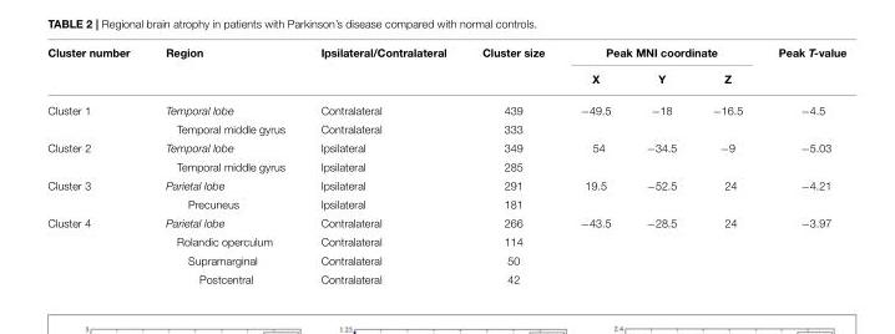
<table><thead><tr><td rowspan="2">Cluster number</td><td rowspan="2">Region</td><td rowspan="2">Ipsilateral/Contralateral</td><td rowspan="2">Cluster size</td><td colspan="3">Peak MNI coordinate</td><td rowspan="2">Peak T-value</td></tr><tr><td>X</td><td>Y</td><td>Z</td></tr></thead><tbody><tr><td rowspan="2">Cluster 1</td><td>Temporal lobe</td><td>Contralateral</td><td>439</td><td>−49.5</td><td>−18</td><td>−16.5</td><td>−4.5</td></tr><tr><td>Temporal middle gyrus</td><td>Contralateral</td><td>333</td><td></td><td></td><td></td><td></td></tr><tr><td rowspan="2">Cluster 2</td><td>Temporal lobe</td><td>Ipsilateral</td><td>349</td><td>54</td><td>−34.5</td><td>−9</td><td>−5.03</td></tr><tr><td>Temporal middle gyrus</td><td>Ipsilateral</td><td>285</td><td></td><td></td><td></td><td></td></tr><tr><td rowspan="2">Cluster 3</td><td>Parietal lobe</td><td>Ipsilateral</td><td>291</td><td>19.5</td><td>−52.5</td><td>24</td><td>−4.21</td></tr><tr><td>Precuneus</td><td>Ipsilateral</td><td>181</td><td></td><td></td><td></td><td></td></tr><tr><td rowspan="4">Cluster 4</td><td>Parietal lobe</td><td>Contralateral</td><td>266</td><td>−43.5</td><td>−28.5</td><td>24</td><td>−3.97</td></tr><tr><td>Rolandic operculum</td><td>Contralateral</td><td>114</td><td></td><td></td><td></td><td></td></tr><tr><td>Supramarginal</td><td>Contralateral</td><td>50</td><td></td><td></td><td></td><td></td></tr><tr><td>Postcentral</td><td>Contralateral</td><td>42</td><td></td><td></td><td></td><td></td></tr></tbody></table>